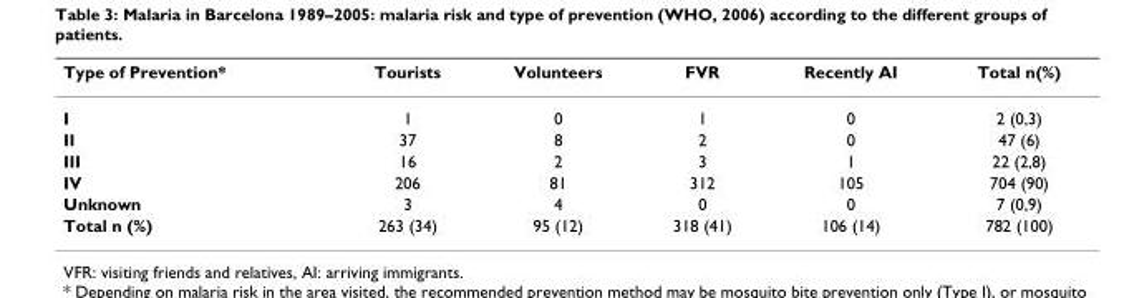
<table><thead><tr><td>Type of Prevention*</td><td>Tourists</td><td>Volunteers</td><td>FVR</td><td>Recently AI</td><td>Total n(%)</td></tr></thead><tbody><tr><td>I</td><td>1</td><td>0</td><td>1</td><td>0</td><td>2 (0,3)</td></tr><tr><td>II</td><td>37</td><td>8</td><td>2</td><td>0</td><td>47 (6)</td></tr><tr><td>III</td><td>16</td><td>2</td><td>3</td><td>1</td><td>22 (2,8)</td></tr><tr><td>IV</td><td>206</td><td>81</td><td>312</td><td>105</td><td>704 (90)</td></tr><tr><td>Unknown</td><td>3</td><td>4</td><td>0</td><td>0</td><td>7 (0,9)</td></tr><tr><td>Total n (%)</td><td>263 (34)</td><td>95 (12)</td><td>318 (41)</td><td>106 (14)</td><td>782 (100)</td></tr></tbody></table>